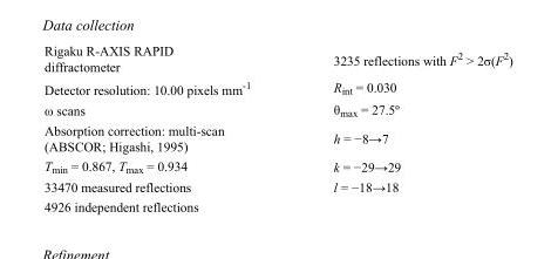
<table><tbody><tr><td>Rigaku R-AXIS RAPID diffractometer</td><td>3235 reflections with F<sup>2</sup> &gt; 2σ(F<sup>2</sup>)</td></tr><tr><td>Detector resolution: 10.00 pixels mm<sup>-1</sup></td><td>R<sub>int</sub> = 0.030</td></tr><tr><td>ω scans</td><td>θmax = 27.5º</td></tr><tr><td>Absorption correction: multi-scan (ABSCOR; Higashi, 1995)</td><td>h = −8→7</td></tr><tr><td>T<sub>min</sub> = 0.867, T<sub>max</sub> = 0.934</td><td>k = −29→29</td></tr><tr><td>33470 measured reflections</td><td>l = −18→18</td></tr><tr><td>4926 independent reflections</td><td></td></tr></tbody></table>